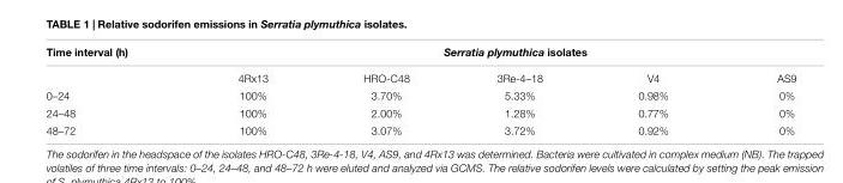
<table><thead><tr><td rowspan="2">Time interval (h)</td><td colspan="5">Serratia plymuthica isolates</td></tr><tr><td>4Rx13</td><td>HRO-C48</td><td>3Re-4–18</td><td>V4</td><td>AS9</td></tr></thead><tbody><tr><td>0–24</td><td>100%</td><td>3.70%</td><td>5.33%</td><td>0.98%</td><td>0%</td></tr><tr><td>24–48</td><td>100%</td><td>2.00%</td><td>1.28%</td><td>0.77%</td><td>0%</td></tr><tr><td>48–72</td><td>100%</td><td>3.07%</td><td>3.72%</td><td>0.92%</td><td>0%</td></tr></tbody></table>